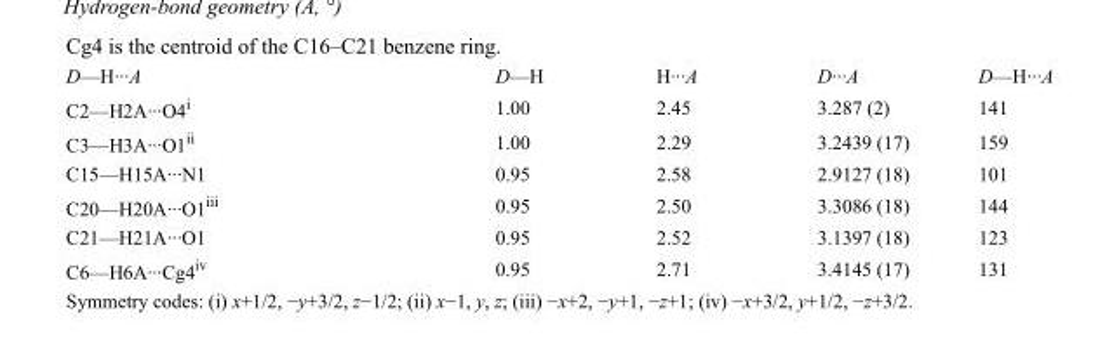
<table><tbody><tr><td>D—H···A</td><td>D—H</td><td>H···A</td><td>D···A</td><td>D—H···A</td></tr><tr><td>C2—H2A···O4<sup>i</sup></td><td>1.00</td><td>2.45</td><td>3.287 (2)</td><td>141</td></tr><tr><td>C3—H3A···O1<sup>ii</sup></td><td>1.00</td><td>2.29</td><td>3.2439 (17)</td><td>159</td></tr><tr><td>C15—H15A···N1</td><td>0.95</td><td>2.58</td><td>2.9127 (18)</td><td>101</td></tr><tr><td>C20—H20A···O1<sup>iii</sup></td><td>0.95</td><td>2.50</td><td>3.3086 (18)</td><td>144</td></tr><tr><td>C21—H21A···O1</td><td>0.95</td><td>2.52</td><td>3.1397 (18)</td><td>123</td></tr><tr><td>C6—H6A···Cg4<sup>iv</sup></td><td>0.95</td><td>2.71</td><td>3.4145 (17)</td><td>131</td></tr></tbody></table>